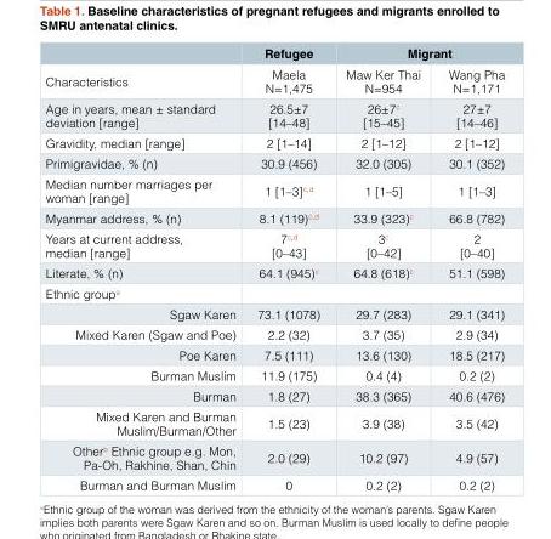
<table><thead><tr><td rowspan="2">Characteristics</td><td rowspan="2">Refugee Maela N=1,475</td><td colspan="2">Migrant</td></tr><tr><td>Maw Ker Thai N=954</td><td>Wang Pha N=1,171</td></tr></thead><tbody><tr><td>Age in years, mean ± standard deviation [range]</td><td>26.5±7 [14–48]</td><td>26±7<sup>c</sup> [15–45]</td><td>27±7 [14–46]</td></tr><tr><td>Gravidity, median [range]</td><td>2 [1–14]</td><td>2 [1–12]</td><td>2 [1–12]</td></tr><tr><td>Primigravidae, % (n)</td><td>30.9 (456)</td><td>32.0 (305)</td><td>30.1 (352)</td></tr><tr><td>Median number marriages per woman [range]</td><td>1 [1–3]<sup>c,d</sup></td><td>1 [1–5]</td><td>1 [1–3]</td></tr><tr><td>Myanmar address, % (n)</td><td>8.1 (119)<sup>c,d</sup></td><td>33.9 (323)<sup>c</sup></td><td>66.8 (782)</td></tr><tr><td>Years at current address, median [range]</td><td>7<sup>c,d</sup> [0–43]</td><td>3<sup>c</sup> [0–42]</td><td>2 [0–40]</td></tr><tr><td>Literate, % (n)</td><td>64.1 (945)<sup>c</sup></td><td>64.8 (618)<sup>c</sup></td><td>51.1 (598)</td></tr><tr><td colspan="4">Ethnic group<sup>a</sup></td></tr><tr><td>Sgaw Karen</td><td>73.1 (1078)</td><td>29.7 (283)</td><td>29.1 (341)</td></tr><tr><td>Mixed Karen (Sgaw and Poe)</td><td>2.2 (32)</td><td>3.7 (35)</td><td>2.9 (34)</td></tr><tr><td>Poe Karen</td><td>7.5 (111)</td><td>13.6 (130)</td><td>18.5 (217)</td></tr><tr><td>Burman Muslim</td><td>11.9 (175)</td><td>0.4 (4)</td><td>0.2 (2)</td></tr><tr><td>Burman</td><td>1.8 (27)</td><td>38.3 (365)</td><td>40.6 (476)</td></tr><tr><td>Mixed Karen and Burman Muslim/Burman/Other</td><td>1.5 (23)</td><td>3.9 (38)</td><td>3.5 (42)</td></tr><tr><td>Other<sup>b</sup> Ethnic group e.g. Mon, Pa-Oh, Rakhine, Shan, Chin</td><td>2.0 (29)</td><td>10.2 (97)</td><td>4.9 (57)</td></tr><tr><td>Burman and Burman Muslim</td><td>0</td><td>0.2 (2)</td><td>0.2 (2)</td></tr></tbody></table>